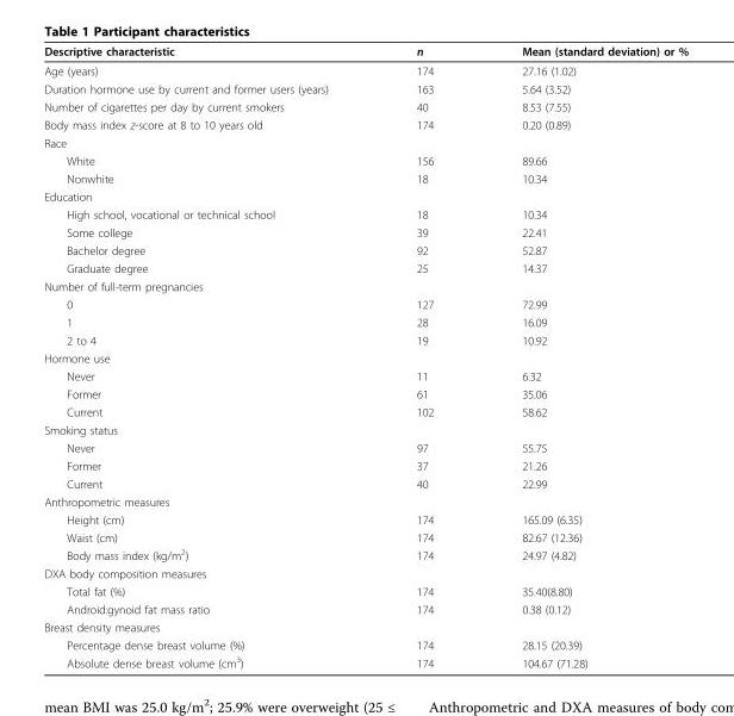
<table><thead><tr><td>Descriptive characteristic</td><td>n</td><td>Mean (standard deviation) or %</td></tr></thead><tbody><tr><td>Age (years)</td><td>174</td><td>27.16 (1.02)</td></tr><tr><td>Duration hormone use by current and former users (years)</td><td>163</td><td>5.64 (3.52)</td></tr><tr><td>Number of cigarettes per day by current smokers</td><td>40</td><td>8.53 (7.55)</td></tr><tr><td>Body mass index z-score at 8 to 10 years old</td><td>174</td><td>0.20 (0.89)</td></tr><tr><td colspan="3">Race</td></tr><tr><td>White</td><td>156</td><td>89.66</td></tr><tr><td>Nonwhite</td><td>18</td><td>10.34</td></tr><tr><td colspan="3">Education</td></tr><tr><td>High school, vocational or technical school</td><td>18</td><td>10.34</td></tr><tr><td>Some college</td><td>39</td><td>22.41</td></tr><tr><td>Bachelor degree</td><td>92</td><td>52.87</td></tr><tr><td>Graduate degree</td><td>25</td><td>14.37</td></tr><tr><td colspan="3">Number of full-term pregnancies</td></tr><tr><td>0</td><td>127</td><td>72.99</td></tr><tr><td>1</td><td>28</td><td>16.09</td></tr><tr><td>2 to 4</td><td>19</td><td>10.92</td></tr><tr><td colspan="3">Hormone use</td></tr><tr><td>Never</td><td>11</td><td>6.32</td></tr><tr><td>Former</td><td>61</td><td>35.06</td></tr><tr><td>Current</td><td>102</td><td>58.62</td></tr><tr><td colspan="3">Smoking status</td></tr><tr><td>Never</td><td>97</td><td>55.75</td></tr><tr><td>Former</td><td>37</td><td>21.26</td></tr><tr><td>Current</td><td>40</td><td>22.99</td></tr><tr><td colspan="3">Anthropometric measures</td></tr><tr><td>Height (cm)</td><td>174</td><td>165.09 (6.35)</td></tr><tr><td>Waist (cm)</td><td>174</td><td>82.67 (12.36)</td></tr><tr><td>Body mass index (kg/m<sup>2</sup>)</td><td>174</td><td>24.97 (4.82)</td></tr><tr><td colspan="3">DXA body composition measures</td></tr><tr><td>Total fat (%)</td><td>174</td><td>35.40(8.80)</td></tr><tr><td>Android:gynoid fat mass ratio</td><td>174</td><td>0.38 (0.12)</td></tr><tr><td colspan="3">Breast density measures</td></tr><tr><td>Percentage dense breast volume (%)</td><td>174</td><td>28.15 (20.39)</td></tr><tr><td>Absolute dense breast volume (cm<sup>3</sup>)</td><td>174</td><td>104.67 (71.28)</td></tr></tbody></table>